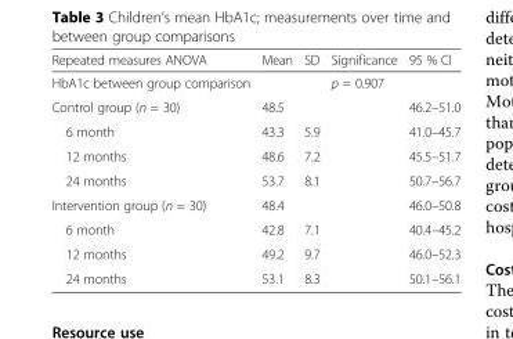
<table><thead><tr><td>Repeated measures ANOVA</td><td>Mean</td><td>SD</td><td>Significance</td><td>95 % Cl</td></tr></thead><tbody><tr><td>HbA1c between group comparison</td><td></td><td></td><td>p = 0.907</td><td></td></tr><tr><td>Control group (n = 30)</td><td>48.5</td><td></td><td></td><td>46.2–51.0</td></tr><tr><td>6 month</td><td>43.3</td><td>5.9</td><td></td><td>41.0–45.7</td></tr><tr><td>12 months</td><td>48.6</td><td>7.2</td><td></td><td>45.5–51.7</td></tr><tr><td>24 months</td><td>53.7</td><td>8.1</td><td></td><td>50.7–56.7</td></tr><tr><td>Intervention group (n = 30)</td><td>48.4</td><td></td><td></td><td>46.0–50.8</td></tr><tr><td>6 month</td><td>42.8</td><td>7.1</td><td></td><td>40.4–45.2</td></tr><tr><td>12 months</td><td>49.2</td><td>9.7</td><td></td><td>46.0–52.3</td></tr><tr><td>24 months</td><td>53.1</td><td>8.3</td><td></td><td>50.1–56.1</td></tr></tbody></table>